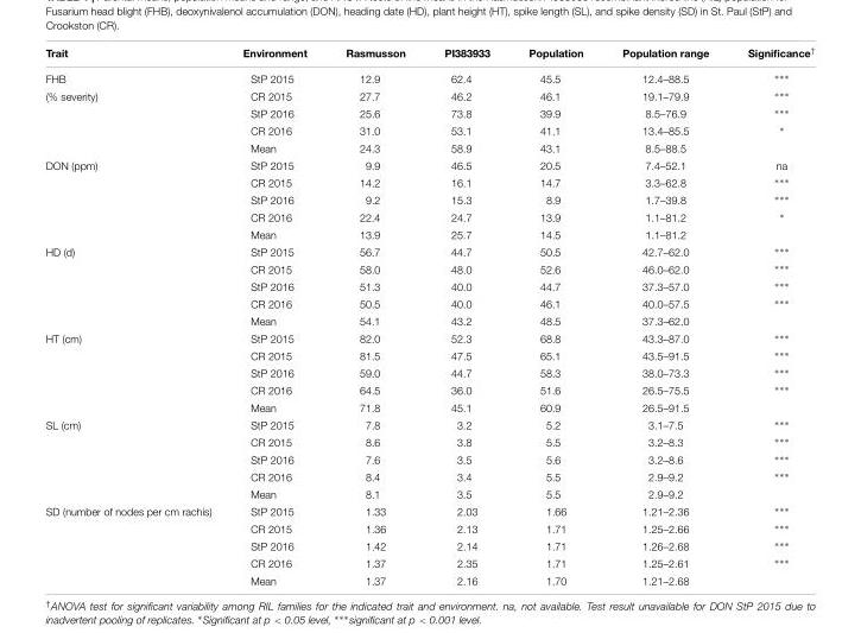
<table><thead><tr><td>Trait</td><td>Environment</td><td>Rasmusson</td><td>PI383933</td><td>Population</td><td>Population range</td><td>Significance<sup>†</sup></td></tr></thead><tbody><tr><td>FHB</td><td>StP 2015</td><td>12.9</td><td>62.4</td><td>45.5</td><td>12.4–88.5</td><td>∗∗∗</td></tr><tr><td rowspan="4">(% severity)</td><td>CR 2015</td><td>27.7</td><td>46.2</td><td>46.1</td><td>19.1–79.9</td><td>∗∗∗</td></tr><tr><td>StP 2016</td><td>25.6</td><td>73.8</td><td>39.9</td><td>8.5–76.9</td><td>∗∗∗</td></tr><tr><td>CR 2016</td><td>31.0</td><td>53.1</td><td>41.1</td><td>13.4–85.5</td><td>∗</td></tr><tr><td>Mean</td><td>24.3</td><td>58.9</td><td>43.1</td><td>8.5–88.5</td><td></td></tr><tr><td rowspan="5">DON (ppm)</td><td>StP 2015</td><td>9.9</td><td>46.5</td><td>20.5</td><td>7.4–52.1</td><td>na</td></tr><tr><td>CR 2015</td><td>14.2</td><td>16.1</td><td>14.7</td><td>3.3–62.8</td><td>∗∗∗</td></tr><tr><td>StP 2016</td><td>9.2</td><td>15.3</td><td>8.9</td><td>1.7–39.8</td><td>∗∗∗</td></tr><tr><td>CR 2016</td><td>22.4</td><td>24.7</td><td>13.9</td><td>1.1–81.2</td><td>∗</td></tr><tr><td>Mean</td><td>13.9</td><td>25.7</td><td>14.5</td><td>1.1–81.2</td><td></td></tr><tr><td rowspan="5">HD (d)</td><td>StP 2015</td><td>56.7</td><td>44.7</td><td>50.5</td><td>42.7–62.0</td><td>∗∗∗</td></tr><tr><td>CR 2015</td><td>58.0</td><td>48.0</td><td>52.6</td><td>46.0–62.0</td><td>∗∗∗</td></tr><tr><td>StP 2016</td><td>51.3</td><td>40.0</td><td>44.7</td><td>37.3–57.0</td><td>∗∗∗</td></tr><tr><td>CR 2016</td><td>50.5</td><td>40.0</td><td>46.1</td><td>40.0–57.5</td><td>∗∗∗</td></tr><tr><td>Mean</td><td>54.1</td><td>43.2</td><td>48.5</td><td>37.3–62.0</td><td></td></tr><tr><td rowspan="5">HT (cm)</td><td>StP 2015</td><td>82.0</td><td>52.3</td><td>68.8</td><td>43.3–87.0</td><td>∗∗∗</td></tr><tr><td>CR 2015</td><td>81.5</td><td>47.5</td><td>65.1</td><td>43.5–91.5</td><td>∗∗∗</td></tr><tr><td>StP 2016</td><td>59.0</td><td>44.7</td><td>58.3</td><td>38.0–73.3</td><td>∗∗∗</td></tr><tr><td>CR 2016</td><td>64.5</td><td>36.0</td><td>51.6</td><td>26.5–75.5</td><td>∗∗∗</td></tr><tr><td>Mean</td><td>71.8</td><td>45.1</td><td>60.9</td><td>26.5–91.5</td><td></td></tr><tr><td rowspan="5">SL (cm)</td><td>StP 2015</td><td>7.8</td><td>3.2</td><td>5.2</td><td>3.1–7.5</td><td>∗∗∗</td></tr><tr><td>CR 2015</td><td>8.6</td><td>3.8</td><td>5.5</td><td>3.2–8.3</td><td>∗∗∗</td></tr><tr><td>StP 2016</td><td>7.6</td><td>3.5</td><td>5.6</td><td>3.2–8.6</td><td>∗∗∗</td></tr><tr><td>CR 2016</td><td>8.4</td><td>3.4</td><td>5.5</td><td>2.9–9.2</td><td>∗∗∗</td></tr><tr><td>Mean</td><td>8.1</td><td>3.5</td><td>5.5</td><td>2.9–9.2</td><td></td></tr><tr><td rowspan="5">SD (number of nodes per cm rachis)</td><td>StP 2015</td><td>1.33</td><td>2.03</td><td>1.66</td><td>1.21–2.36</td><td>∗∗∗</td></tr><tr><td>CR 2015</td><td>1.36</td><td>2.13</td><td>1.71</td><td>1.25–2.66</td><td>∗∗∗</td></tr><tr><td>StP 2016</td><td>1.42</td><td>2.14</td><td>1.71</td><td>1.26–2.68</td><td>∗∗∗</td></tr><tr><td>CR 2016</td><td>1.37</td><td>2.35</td><td>1.71</td><td>1.25–2.61</td><td>∗∗∗</td></tr><tr><td>Mean</td><td>1.37</td><td>2.16</td><td>1.70</td><td>1.21–2.68</td><td></td></tr></tbody></table>